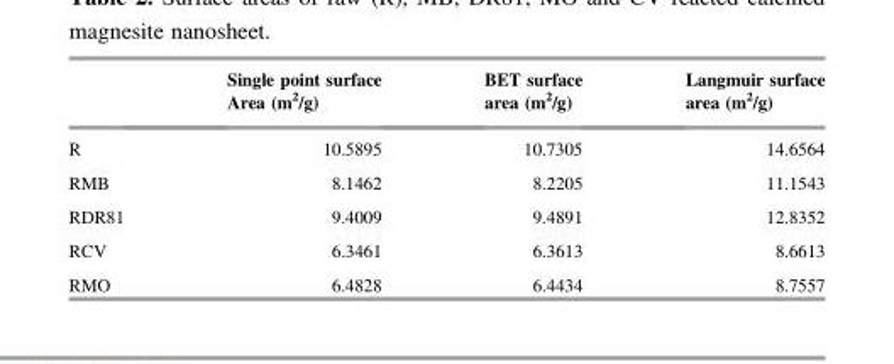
<table><thead><tr><td></td><td>Single point surface Area (m<sup>2</sup>/g)</td><td>BET surface area (m<sup>2</sup>/g)</td><td>Langmuir surface area (m<sup>2</sup>/g)</td></tr></thead><tbody><tr><td>R</td><td>10.5895</td><td>10.7305</td><td>14.6564</td></tr><tr><td>RMB</td><td>8.1462</td><td>8.2205</td><td>11.1543</td></tr><tr><td>RDR81</td><td>9.4009</td><td>9.4891</td><td>12.8352</td></tr><tr><td>RCV</td><td>6.3461</td><td>6.3613</td><td>8.6613</td></tr><tr><td>RMO</td><td>6.4828</td><td>6.4434</td><td>8.7557</td></tr></tbody></table>